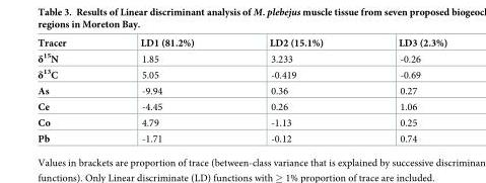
<table><thead><tr><td>Tracer</td><td>LD1 (81.2%)</td><td>LD2 (15.1%)</td><td>LD3 (2.3%)</td></tr></thead><tbody><tr><td>δ<sup>15</sup>N</td><td>1.85</td><td>3.233</td><td>-0.26</td></tr><tr><td>δ<sup>13</sup>C</td><td>5.05</td><td>-0.419</td><td>-0.69</td></tr><tr><td>As</td><td>-9.94</td><td>0.36</td><td>0.27</td></tr><tr><td>Ce</td><td>-4.45</td><td>0.26</td><td>1.06</td></tr><tr><td>Co</td><td>4.79</td><td>-1.13</td><td>0.25</td></tr><tr><td>Pb</td><td>-1.71</td><td>-0.12</td><td>0.74</td></tr></tbody></table>